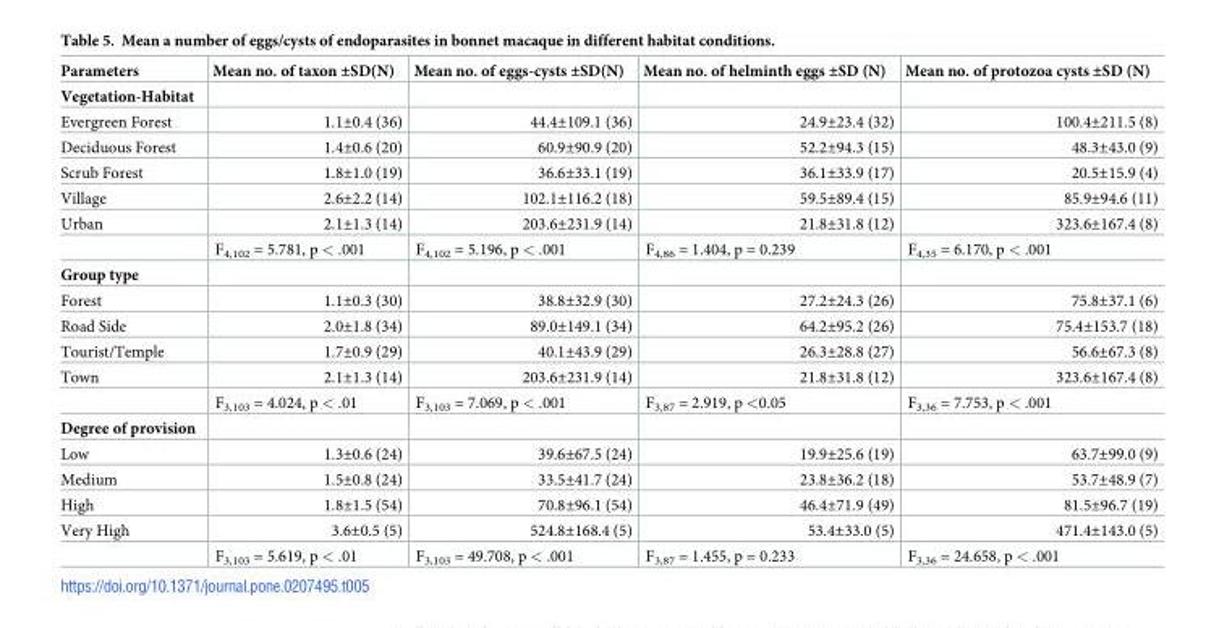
<table><thead><tr><td>Parameters</td><td>Mean no. of taxon ±SD(N)</td><td>Mean no. of eggs-cysts ±SD(N)</td><td>Mean no. of helminth eggs ±SD (N)</td><td>Mean no. of protozoa cysts ±SD (N)</td></tr></thead><tbody><tr><td colspan="5">Vegetation-Habitat</td></tr><tr><td>Evergreen Forest</td><td>1.1±0.4 (36)</td><td>44.4±109.1 (36)</td><td>24.9±23.4 (32)</td><td>100.4±211.5 (8)</td></tr><tr><td>Deciduous Forest</td><td>1.4±0.6 (20)</td><td>60.9±90.9 (20)</td><td>52.2±94.3 (15)</td><td>48.3±43.0 (9)</td></tr><tr><td>Scrub Forest</td><td>1.8±1.0 (19)</td><td>36.6±33.1 (19)</td><td>36.1±33.9 (17)</td><td>20.5±15.9 (4)</td></tr><tr><td>Village</td><td>2.6±2.2 (14)</td><td>102.1±116.2 (18)</td><td>59.5±89.4 (15)</td><td>85.9±94.6 (11)</td></tr><tr><td rowspan="2">Urban</td><td>2.1±1.3 (14)</td><td>203.6±231.9 (14)</td><td>21.8±31.8 (12)</td><td>323.6±167.4 (8)</td></tr><tr><td>F<sub>4,102</sub> = 5.781, p &lt; .001</td><td>F<sub>4,102</sub> = 5.196, p &lt; .001</td><td>F<sub>4,86</sub> = 1.404, p = 0.239</td><td>F<sub>4,35</sub> = 6.170, p &lt; .001</td></tr><tr><td colspan="5">Group type</td></tr><tr><td>Forest</td><td>1.1±0.3 (30)</td><td>38.8±32.9 (30)</td><td>27.2±24.3 (26)</td><td>75.8±37.1 (6)</td></tr><tr><td>Road Side</td><td>2.0±1.8 (34)</td><td>89.0±149.1 (34)</td><td>64.2±95.2 (26)</td><td>75.4±153.7 (18)</td></tr><tr><td>Tourist/Temple</td><td>1.7±0.9 (29)</td><td>40.1±43.9 (29)</td><td>26.3±28.8 (27)</td><td>56.6±67.3 (8)</td></tr><tr><td rowspan="2">Town</td><td>2.1±1.3 (14)</td><td>203.6±231.9 (14)</td><td>21.8±31.8 (12)</td><td>323.6±167.4 (8)</td></tr><tr><td>F<sub>3,103</sub> = 4.024, p &lt; .01</td><td>F<sub>3,103</sub> = 7.069, p &lt; .001</td><td>F<sub>3,87</sub> = 2.919, p &lt;0.05</td><td>F<sub>3,36</sub> = 7.753, p &lt; .001</td></tr><tr><td colspan="5">Degree of provision</td></tr><tr><td>Low</td><td>1.3±0.6 (24)</td><td>39.6±67.5 (24)</td><td>19.9±25.6 (19)</td><td>63.7±99.0 (9)</td></tr><tr><td>Medium</td><td>1.5±0.8 (24)</td><td>33.5±41.7 (24)</td><td>23.8±36.2 (18)</td><td>53.7±48.9 (7)</td></tr><tr><td>High</td><td>1.8±1.5 (54)</td><td>70.8±96.1 (54)</td><td>46.4±71.9 (49)</td><td>81.5±96.7 (19)</td></tr><tr><td rowspan="2">Very High</td><td>3.6±0.5 (5)</td><td>524.8±168.4 (5)</td><td>53.4±33.0 (5)</td><td>471.4±143.0 (5)</td></tr><tr><td>F<sub>3,103</sub> = 5.619, p &lt; .01</td><td>F<sub>3,103</sub> = 49.708, p &lt; .001</td><td>F<sub>3,87</sub> = 1.455, p = 0.233</td><td>F<sub>3,36</sub> = 24.658, p &lt; .001</td></tr></tbody></table>